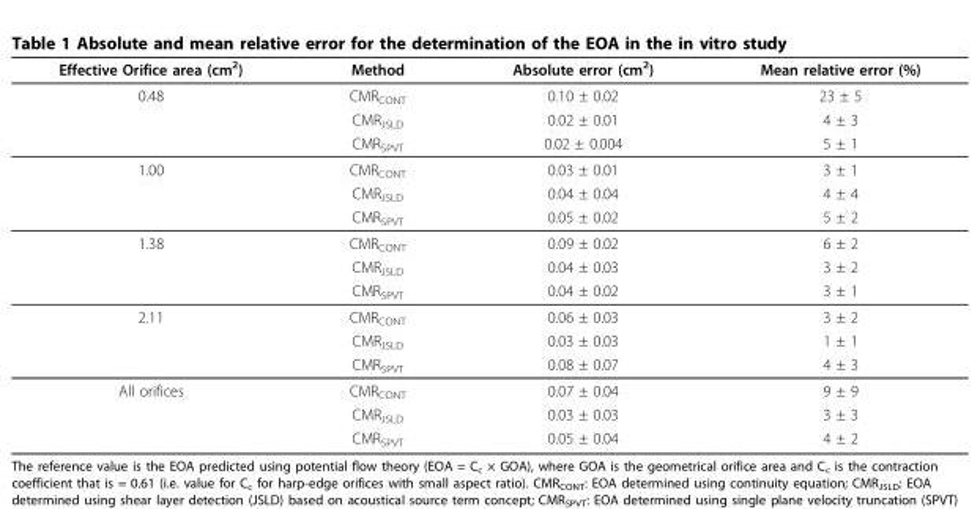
<table><thead><tr><td>Effective Orifice area (cm<sup>2</sup>)</td><td>Method</td><td>Absolute error (cm<sup>2</sup>)</td><td>Mean relative error (%)</td></tr></thead><tbody><tr><td rowspan="3">0.48</td><td>CMR<sub>CONT</sub></td><td>0.10 ± 0.02</td><td>23 ± 5</td></tr><tr><td>CMR<sub>JSLD</sub></td><td>0.02 ± 0.01</td><td>4 ± 3</td></tr><tr><td>CMR<sub>SPVT</sub></td><td>0.02 ± 0.004</td><td>5 ± 1</td></tr><tr><td rowspan="3">1.00</td><td>CMR<sub>CONT</sub></td><td>0.03 ± 0.01</td><td>3 ± 1</td></tr><tr><td>CMR<sub>JSLD</sub></td><td>0.04 ± 0.04</td><td>4 ± 4</td></tr><tr><td>CMR<sub>SPVT</sub></td><td>0.05 ± 0.02</td><td>5 ± 2</td></tr><tr><td rowspan="3">1.38</td><td>CMR<sub>CONT</sub></td><td>0.09 ± 0.02</td><td>6 ± 2</td></tr><tr><td>CMR<sub>JSLD</sub></td><td>0.04 ± 0.03</td><td>3 ± 2</td></tr><tr><td>CMR<sub>SPVT</sub></td><td>0.04 ± 0.02</td><td>3 ± 1</td></tr><tr><td rowspan="3">2.11</td><td>CMR<sub>CONT</sub></td><td>0.06 ± 0.03</td><td>3 ± 2</td></tr><tr><td>CMR<sub>JSLD</sub></td><td>0.03 ± 0.03</td><td>1 ± 1</td></tr><tr><td>CMR<sub>SPVT</sub></td><td>0.08 ± 0.07</td><td>4 ± 3</td></tr><tr><td rowspan="3">All orifices</td><td>CMR<sub>CONT</sub></td><td>0.07 ± 0.04</td><td>9 ± 9</td></tr><tr><td>CMR<sub>JSLD</sub></td><td>0.03 ± 0.03</td><td>3 ± 3</td></tr><tr><td>CMR<sub>SPVT</sub></td><td>0.05 ± 0.04</td><td>4 ± 2</td></tr></tbody></table>